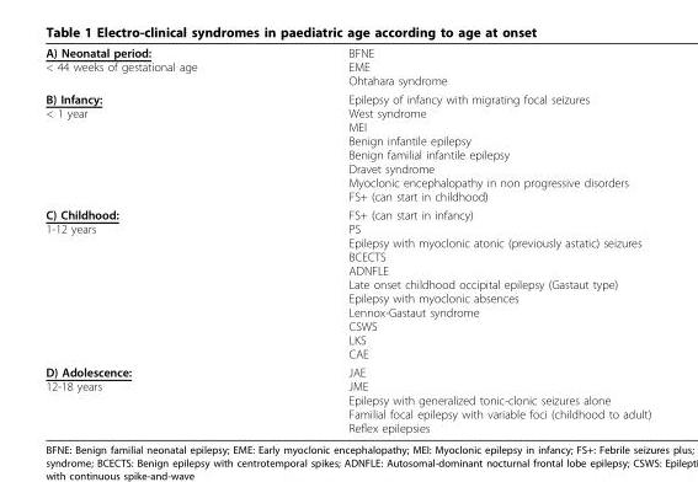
<table><tbody><tr><td>A) Neonatal period: &lt; 44 weeks of gestational age</td><td>BFNE EME Ohtahara syndrome</td></tr><tr><td>B) Infancy: &lt; 1 year</td><td>Epilepsy of infancy with migrating focal seizures West syndrome MEI Benign infantile epilepsy Benign familial infantile epilepsy Dravet syndrome Myoclonic encephalopathy in non progressive disorders FS+ (can start in childhood)</td></tr><tr><td>C) Childhood: 1-12 years</td><td>FS+ (can start in infancy) PS Epilepsy with myoclonic atonic (previously astatic) seizures BCECTS ADNFLE Late onset childhood occipital epilepsy (Gastaut type) Epilepsy with myoclonic absences Lennox-Gastaut syndrome CSWS LKS CAE</td></tr><tr><td>D) Adolescence: 12-18 years</td><td>JAE JME Epilepsy with generalized tonic-clonic seizures alone Familial focal epilepsy with variable foci (childhood to adult) Reflex epilepsies</td></tr></tbody></table>